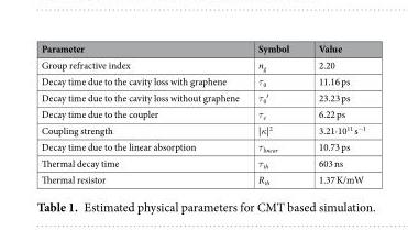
<table><thead><tr><td>Parameter</td><td>Symbol</td><td>Value</td></tr></thead><tbody><tr><td>Group refractive index</td><td>n<sub>g</sub></td><td>2.20</td></tr><tr><td>Decay time due to the cavity loss with graphene</td><td>τ<sub>0</sub></td><td>11.16 ps</td></tr><tr><td>Decay time due to the cavity loss without graphene</td><td>τ<sub>0</sub>′</td><td>23.23 ps</td></tr><tr><td>Decay time due to the coupler</td><td>τ<sub>e</sub></td><td>6.22 ps</td></tr><tr><td>Coupling strength</td><td>|κ|<sup>2</sup></td><td>3.21∙10<sup>11</sup> s<sup>−1</sup></td></tr><tr><td>Decay time due to the linear absorption</td><td>τ<sub>linear</sub></td><td>10.73 ps</td></tr><tr><td>Thermal decay time</td><td>τ<sub>th</sub></td><td>603 ns</td></tr><tr><td>Thermal resistor</td><td>R<sub>th</sub></td><td>1.37 K/mW</td></tr></tbody></table>